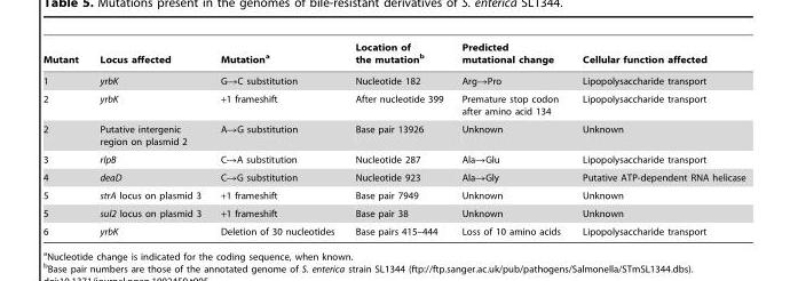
<table><thead><tr><td>Mutant</td><td>Locus affected</td><td>Mutation<sup>a</sup></td><td>Location of the mutation<sup>b</sup></td><td>Predicted mutational change</td><td>Cellular function affected</td></tr></thead><tbody><tr><td>1</td><td>yrbK</td><td>G→C substitution</td><td>Nucleotide 182</td><td>Arg→Pro</td><td>Lipopolysaccharide transport</td></tr><tr><td>2</td><td>yrbK</td><td>+1 frameshift</td><td>After nucleotide 399</td><td>Premature stop codon after amino acid 134</td><td>Lipopolysaccharide transport</td></tr><tr><td>2</td><td>Putative intergenic region on plasmid 2</td><td>A→G substitution</td><td>Base pair 13926</td><td>Unknown</td><td>Unknown</td></tr><tr><td>3</td><td>rlpB</td><td>C→A substitution</td><td>Nucleotide 287</td><td>Ala→Glu</td><td>Lipopolysaccharide transport</td></tr><tr><td>4</td><td>deaD</td><td>C→G substitution</td><td>Nucleotide 923</td><td>Ala→Gly</td><td>Putative ATP-dependent RNA helicase</td></tr><tr><td>5</td><td>strA locus on plasmid 3</td><td>+1 frameshift</td><td>Base pair 7949</td><td>Unknown</td><td>Unknown</td></tr><tr><td>5</td><td>sul2 locus on plasmid 3</td><td>+1 frameshift</td><td>Base pair 38</td><td>Unknown</td><td>Unknown</td></tr><tr><td>6</td><td>yrbK</td><td>Deletion of 30 nucleotides</td><td>Base pairs 415–444</td><td>Loss of 10 amino acids</td><td>Lipopolysaccharide transport</td></tr></tbody></table>